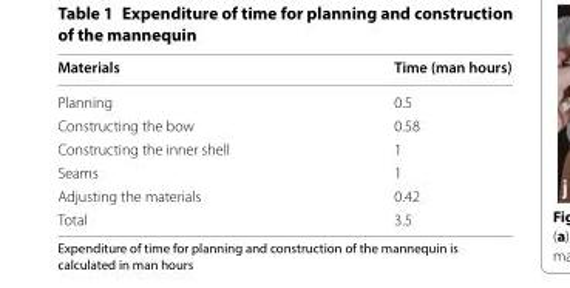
<table><thead><tr><td>Materials</td><td>Time (man hours)</td></tr></thead><tbody><tr><td>Planning</td><td>0.5</td></tr><tr><td>Constructing the bow</td><td>0.58</td></tr><tr><td>Constructing the inner shell</td><td>1</td></tr><tr><td>Seams</td><td>1</td></tr><tr><td>Adjusting the materials</td><td>0.42</td></tr><tr><td>Total</td><td>3.5</td></tr></tbody></table>